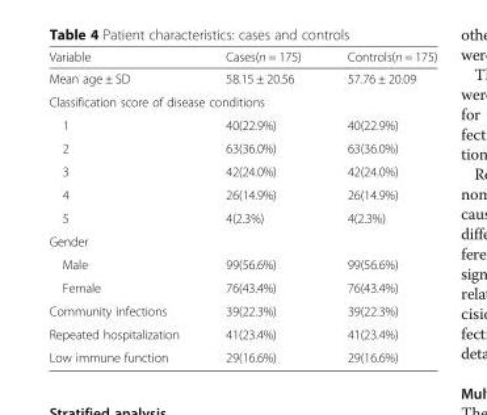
<table><thead><tr><td>Variable</td><td>Cases(n = 175)</td><td>Controls(n = 175)</td></tr></thead><tbody><tr><td>Mean age ± SD</td><td>58.15 ± 20.56</td><td>57.76 ± 20.09</td></tr><tr><td colspan="3">Classification score of disease conditions</td></tr><tr><td>1</td><td>40(22.9%)</td><td>40(22.9%)</td></tr><tr><td>2</td><td>63(36.0%)</td><td>63(36.0%)</td></tr><tr><td>3</td><td>42(24.0%)</td><td>42(24.0%)</td></tr><tr><td>4</td><td>26(14.9%)</td><td>26(14.9%)</td></tr><tr><td>5</td><td>4(2.3%)</td><td>4(2.3%)</td></tr><tr><td colspan="3">Gender</td></tr><tr><td>Male</td><td>99(56.6%)</td><td>99(56.6%)</td></tr><tr><td>Female</td><td>76(43.4%)</td><td>76(43.4%)</td></tr><tr><td>Community infections</td><td>39(22.3%)</td><td>39(22.3%)</td></tr><tr><td>Repeated hospitalization</td><td>41(23.4%)</td><td>41(23.4%)</td></tr><tr><td>Low immune function</td><td>29(16.6%)</td><td>29(16.6%)</td></tr></tbody></table>